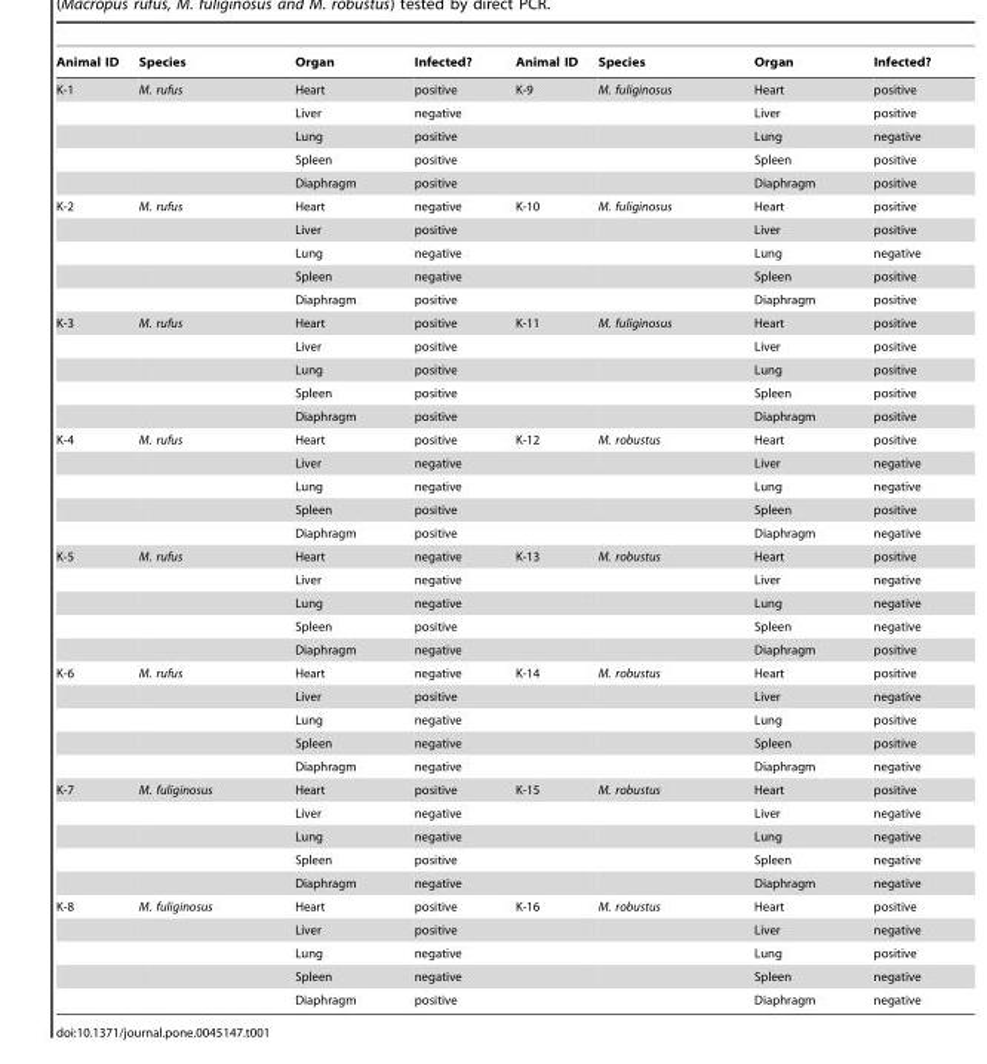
<table><thead><tr><td>Animal ID</td><td>Species</td><td>Organ</td><td>Infected?</td><td>Animal ID</td><td>Species</td><td>Organ</td><td>Infected?</td></tr></thead><tbody><tr><td rowspan="5">K-1</td><td>M. rufus</td><td>Heart</td><td>positive</td><td>K-9</td><td>M. fuliginosus</td><td>Heart</td><td>positive</td></tr><tr><td></td><td>Liver</td><td>negative</td><td></td><td></td><td>Liver</td><td>positive</td></tr><tr><td></td><td>Lung</td><td>positive</td><td></td><td></td><td>Lung</td><td>negative</td></tr><tr><td></td><td>Spleen</td><td>positive</td><td></td><td></td><td>Spleen</td><td>positive</td></tr><tr><td></td><td>Diaphragm</td><td>positive</td><td></td><td></td><td>Diaphragm</td><td>positive</td></tr><tr><td rowspan="5">K-2</td><td>M. rufus</td><td>Heart</td><td>negative</td><td>K-10</td><td>M. fuliginosus</td><td>Heart</td><td>positive</td></tr><tr><td></td><td>Liver</td><td>positive</td><td></td><td></td><td>Liver</td><td>positive</td></tr><tr><td></td><td>Lung</td><td>negative</td><td></td><td></td><td>Lung</td><td>negative</td></tr><tr><td></td><td>Spleen</td><td>negative</td><td></td><td></td><td>Spleen</td><td>positive</td></tr><tr><td></td><td>Diaphragm</td><td>positive</td><td></td><td></td><td>Diaphragm</td><td>positive</td></tr><tr><td rowspan="5">K-3</td><td>M. rufus</td><td>Heart</td><td>positive</td><td>K-11</td><td>M. fuliginosus</td><td>Heart</td><td>positive</td></tr><tr><td></td><td>Liver</td><td>positive</td><td></td><td></td><td>Liver</td><td>positive</td></tr><tr><td></td><td>Lung</td><td>positive</td><td></td><td></td><td>Lung</td><td>positive</td></tr><tr><td></td><td>Spleen</td><td>positive</td><td></td><td></td><td>Spleen</td><td>positive</td></tr><tr><td></td><td>Diaphragm</td><td>positive</td><td></td><td></td><td>Diaphragm</td><td>positive</td></tr><tr><td rowspan="5">K-4</td><td>M. rufus</td><td>Heart</td><td>positive</td><td>K-12</td><td>M. robustus</td><td>Heart</td><td>positive</td></tr><tr><td></td><td>Liver</td><td>negative</td><td></td><td></td><td>Liver</td><td>negative</td></tr><tr><td></td><td>Lung</td><td>negative</td><td></td><td></td><td>Lung</td><td>negative</td></tr><tr><td></td><td>Spleen</td><td>positive</td><td></td><td></td><td>Spleen</td><td>positive</td></tr><tr><td></td><td>Diaphragm</td><td>positive</td><td></td><td></td><td>Diaphragm</td><td>negative</td></tr><tr><td rowspan="5">K-5</td><td>M. rufus</td><td>Heart</td><td>negative</td><td>K-13</td><td>M. robustus</td><td>Heart</td><td>positive</td></tr><tr><td></td><td>Liver</td><td>negative</td><td></td><td></td><td>Liver</td><td>negative</td></tr><tr><td></td><td>Lung</td><td>negative</td><td></td><td></td><td>Lung</td><td>negative</td></tr><tr><td></td><td>Spleen</td><td>positive</td><td></td><td></td><td>Spleen</td><td>negative</td></tr><tr><td></td><td>Diaphragm</td><td>negative</td><td></td><td></td><td>Diaphragm</td><td>positive</td></tr><tr><td rowspan="5">K-6</td><td>M. rufus</td><td>Heart</td><td>negative</td><td>K-14</td><td>M. robustus</td><td>Heart</td><td>positive</td></tr><tr><td></td><td>Liver</td><td>positive</td><td></td><td></td><td>Liver</td><td>negative</td></tr><tr><td></td><td>Lung</td><td>negative</td><td></td><td></td><td>Lung</td><td>positive</td></tr><tr><td></td><td>Spleen</td><td>negative</td><td></td><td></td><td>Spleen</td><td>positive</td></tr><tr><td></td><td>Diaphragm</td><td>negative</td><td></td><td></td><td>Diaphragm</td><td>negative</td></tr><tr><td rowspan="5">K-7</td><td>M. fuliginosus</td><td>Heart</td><td>positive</td><td>K-15</td><td>M. robustus</td><td>Heart</td><td>positive</td></tr><tr><td></td><td>Liver</td><td>negative</td><td></td><td></td><td>Liver</td><td>negative</td></tr><tr><td></td><td>Lung</td><td>negative</td><td></td><td></td><td>Lung</td><td>negative</td></tr><tr><td></td><td>Spleen</td><td>positive</td><td></td><td></td><td>Spleen</td><td>negative</td></tr><tr><td></td><td>Diaphragm</td><td>negative</td><td></td><td></td><td>Diaphragm</td><td>negative</td></tr><tr><td rowspan="5">K-8</td><td>M. fuliginosus</td><td>Heart</td><td>positive</td><td>K-16</td><td>M. robustus</td><td>Heart</td><td>positive</td></tr><tr><td></td><td>Liver</td><td>positive</td><td></td><td></td><td>Liver</td><td>negative</td></tr><tr><td></td><td>Lung</td><td>negative</td><td></td><td></td><td>Lung</td><td>positive</td></tr><tr><td></td><td>Spleen</td><td>negative</td><td></td><td></td><td>Spleen</td><td>negative</td></tr><tr><td></td><td>Diaphragm</td><td>positive</td><td></td><td></td><td>Diaphragm</td><td>negative</td></tr></tbody></table>